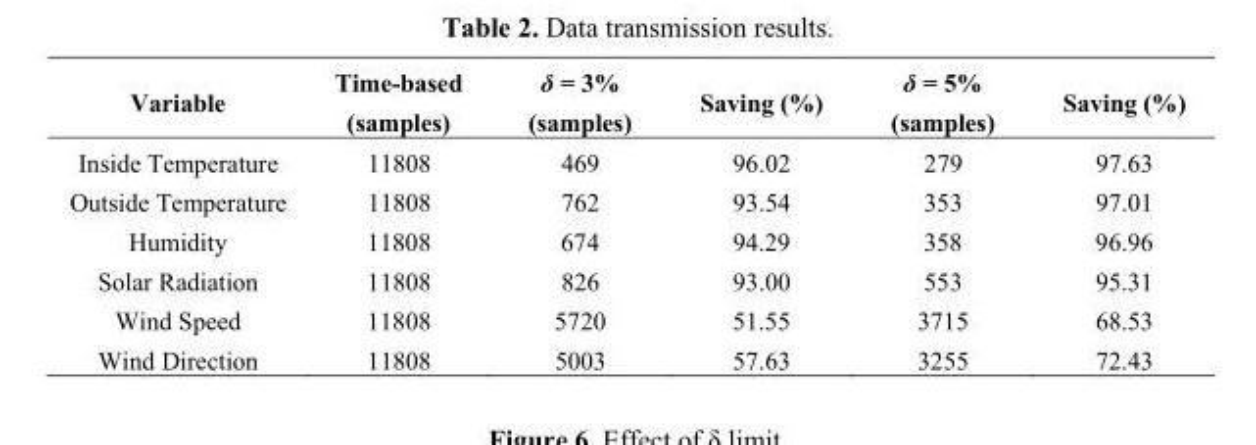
<table><thead><tr><td>Variable</td><td>Time-based (samples)</td><td>δ = 3% (samples)</td><td>Saving (%)</td><td>δ = 5% (samples)</td><td>Saving (%)</td></tr></thead><tbody><tr><td>Inside Temperature</td><td>11808</td><td>469</td><td>96.02</td><td>279</td><td>97.63</td></tr><tr><td>Outside Temperature</td><td>11808</td><td>762</td><td>93.54</td><td>353</td><td>97.01</td></tr><tr><td>Humidity</td><td>11808</td><td>674</td><td>94.29</td><td>358</td><td>96.96</td></tr><tr><td>Solar Radiation</td><td>11808</td><td>826</td><td>93.00</td><td>553</td><td>95.31</td></tr><tr><td>Wind Speed</td><td>11808</td><td>5720</td><td>51.55</td><td>3715</td><td>68.53</td></tr><tr><td>Wind Direction</td><td>11808</td><td>5003</td><td>57.63</td><td>3255</td><td>72.43</td></tr></tbody></table>